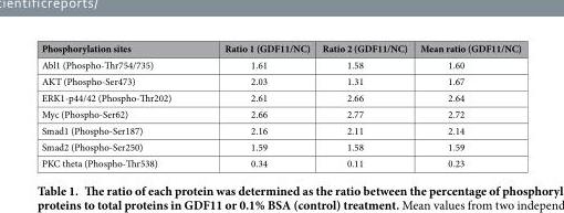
<table><thead><tr><td>Phosphorylation sites</td><td>Ratio 1 (GDF11/NC)</td><td>Ratio 2 (GDF11/NC)</td><td>Mean ratio (GDF11/NC)</td></tr></thead><tbody><tr><td>Abl1 (Phospho-Thr754/735)</td><td>1.61</td><td>1.58</td><td>1.60</td></tr><tr><td>AKT (Phospho-Ser473)</td><td>2.03</td><td>1.31</td><td>1.67</td></tr><tr><td>ERK1-p44/42 (Phospho-Thr202)</td><td>2.61</td><td>2.66</td><td>2.64</td></tr><tr><td>Myc (Phospho-Ser62)</td><td>2.66</td><td>2.77</td><td>2.72</td></tr><tr><td>Smad1 (Phospho-Ser187)</td><td>2.16</td><td>2.11</td><td>2.14</td></tr><tr><td>Smad2 (Phospho-Ser250)</td><td>1.59</td><td>1.58</td><td>1.59</td></tr><tr><td>PKC theta (Phospho-Thr538)</td><td>0.34</td><td>0.11</td><td>0.23</td></tr></tbody></table>